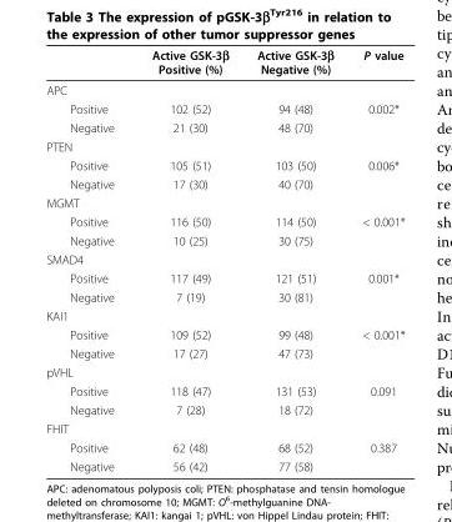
<table><thead><tr><td></td><td>Active GSK-3β Positive (%)</td><td>Active GSK-3β Negative (%)</td><td>P value</td></tr></thead><tbody><tr><td colspan="4">APC</td></tr><tr><td>Positive</td><td>102 (52)</td><td>94 (48)</td><td>0.002*</td></tr><tr><td>Negative</td><td>21 (30)</td><td>48 (70)</td><td></td></tr><tr><td colspan="4">PTEN</td></tr><tr><td>Positive</td><td>105 (51)</td><td>103 (50)</td><td>0.006*</td></tr><tr><td>Negative</td><td>17 (30)</td><td>40 (70)</td><td></td></tr><tr><td colspan="4">MGMT</td></tr><tr><td>Positive</td><td>116 (50)</td><td>114 (50)</td><td>&lt; 0.001*</td></tr><tr><td>Negative</td><td>10 (25)</td><td>30 (75)</td><td></td></tr><tr><td colspan="4">SMAD4</td></tr><tr><td>Positive</td><td>117 (49)</td><td>121 (51)</td><td>0.001*</td></tr><tr><td>Negative</td><td>7 (19)</td><td>30 (81)</td><td></td></tr><tr><td colspan="4">KAI1</td></tr><tr><td>Positive</td><td>109 (52)</td><td>99 (48)</td><td>&lt; 0.001*</td></tr><tr><td>Negative</td><td>17 (27)</td><td>47 (73)</td><td></td></tr><tr><td colspan="4">pVHL</td></tr><tr><td>Positive</td><td>118 (47)</td><td>131 (53)</td><td>0.091</td></tr><tr><td>Negative</td><td>7 (28)</td><td>18 (72)</td><td></td></tr><tr><td colspan="4">FHIT</td></tr><tr><td>Positive</td><td>62 (48)</td><td>68 (52)</td><td>0.387</td></tr><tr><td>Negative</td><td>56 (42)</td><td>77 (58)</td><td></td></tr></tbody></table>